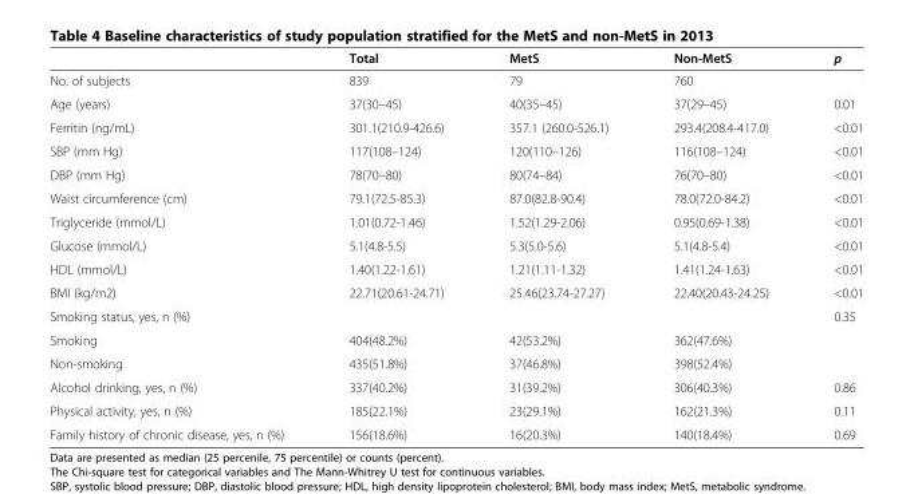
<table><thead><tr><td></td><td>Total</td><td>MetS</td><td>Non-MetS</td><td>p</td></tr></thead><tbody><tr><td>No. of subjects</td><td>839</td><td>79</td><td>760</td><td></td></tr><tr><td>Age (years)</td><td>37(30–45)</td><td>40(35–45)</td><td>37(29–45)</td><td>0.01</td></tr><tr><td>Ferritin (ng/mL)</td><td>301.1(210.9-426.6)</td><td>357.1 (260.0-526.1)</td><td>293.4(208.4-417.0)</td><td>&lt;0.01</td></tr><tr><td>SBP (mm Hg)</td><td>117(108–124)</td><td>120(110–126)</td><td>116(108–124)</td><td>&lt;0.01</td></tr><tr><td>DBP (mm Hg)</td><td>78(70–80)</td><td>80(74–84)</td><td>76(70–80)</td><td>&lt;0.01</td></tr><tr><td>Waist circumference (cm)</td><td>79.1(72.5-85.3)</td><td>87.0(82.8-90.4)</td><td>78.0(72.0-84.2)</td><td>&lt;0.01</td></tr><tr><td>Triglyceride (mmol/L)</td><td>1.01(0.72-1.46)</td><td>1.52(1.29-2.06)</td><td>0.95(0.69-1.38)</td><td>&lt;0.01</td></tr><tr><td>Glucose (mmol/L)</td><td>5.1(4.8-5.5)</td><td>5.3(5.0-5.6)</td><td>5.1(4.8-5.4)</td><td>&lt;0.01</td></tr><tr><td>HDL (mmol/L)</td><td>1.40(1.22-1.61)</td><td>1.21(1.11-1.32)</td><td>1.41(1.24-1.63)</td><td>&lt;0.01</td></tr><tr><td>BMI (kg/m2)</td><td>22.71(20.61-24.71)</td><td>25.46(23.74-27.27)</td><td>22.40(20.43-24.25)</td><td>&lt;0.01</td></tr><tr><td>Smoking status, yes, n (%)</td><td></td><td></td><td></td><td>0.35</td></tr><tr><td>Smoking</td><td>404(48.2%)</td><td>42(53.2%)</td><td>362(47.6%)</td><td></td></tr><tr><td>Non-smoking</td><td>435(51.8%)</td><td>37(46.8%)</td><td>398(52.4%)</td><td></td></tr><tr><td>Alcohol drinking, yes, n (%)</td><td>337(40.2%)</td><td>31(39.2%)</td><td>306(40.3%)</td><td>0.86</td></tr><tr><td>Physical activity, yes, n (%)</td><td>185(22.1%)</td><td>23(29.1%)</td><td>162(21.3%)</td><td>0.11</td></tr><tr><td>Family history of chronic disease, yes, n (%)</td><td>156(18.6%)</td><td>16(20.3%)</td><td>140(18.4%)</td><td>0.69</td></tr></tbody></table>